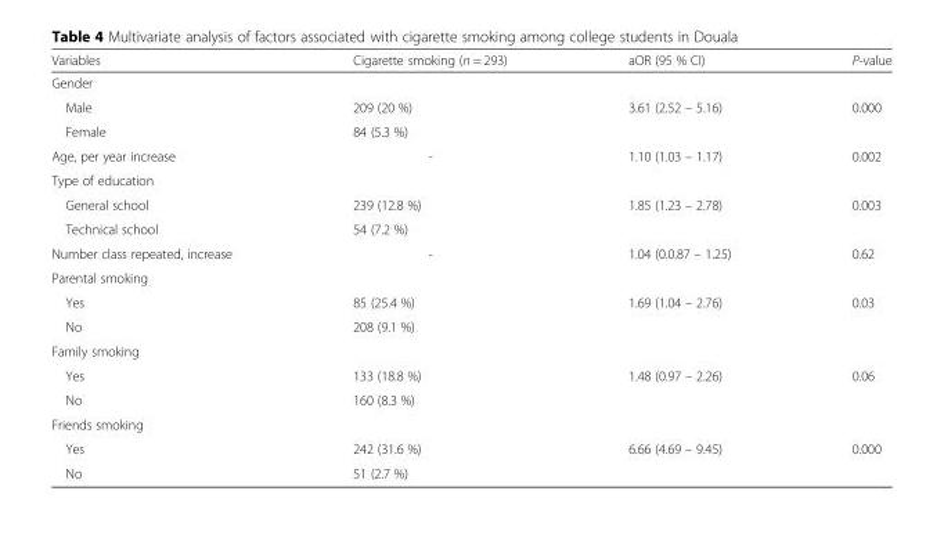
<table><thead><tr><td>Variables</td><td>Cigarette smoking (n = 293)</td><td>aOR (95 % CI)</td><td>P-value</td></tr></thead><tbody><tr><td colspan="4">Gender</td></tr><tr><td>Male</td><td>209 (20 %)</td><td rowspan="2">3.61 (2.52 – 5.16)</td><td rowspan="2">0.000</td></tr><tr><td>Female</td><td>84 (5.3 %)</td></tr><tr><td>Age, per year increase</td><td>-</td><td>1.10 (1.03 – 1.17)</td><td>0.002</td></tr><tr><td colspan="4">Type of education</td></tr><tr><td>General school</td><td>239 (12.8 %)</td><td rowspan="2">1.85 (1.23 – 2.78)</td><td rowspan="2">0.003</td></tr><tr><td>Technical school</td><td>54 (7.2 %)</td></tr><tr><td>Number class repeated, increase</td><td>-</td><td>1.04 (0.0.87 – 1.25)</td><td>0.62</td></tr><tr><td colspan="4">Parental smoking</td></tr><tr><td>Yes</td><td>85 (25.4 %)</td><td rowspan="2">1.69 (1.04 – 2.76)</td><td rowspan="2">0.03</td></tr><tr><td>No</td><td>208 (9.1 %)</td></tr><tr><td colspan="4">Family smoking</td></tr><tr><td>Yes</td><td>133 (18.8 %)</td><td rowspan="2">1.48 (0.97 – 2.26)</td><td rowspan="2">0.06</td></tr><tr><td>No</td><td>160 (8.3 %)</td></tr><tr><td colspan="4">Friends smoking</td></tr><tr><td>Yes</td><td>242 (31.6 %)</td><td rowspan="2">6.66 (4.69 – 9.45)</td><td rowspan="2">0.000</td></tr><tr><td>No</td><td>51 (2.7 %)</td></tr></tbody></table>